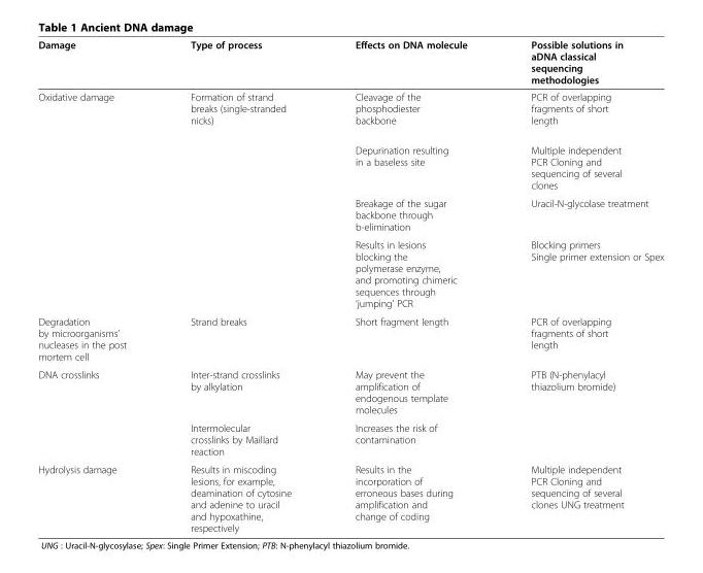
<table><thead><tr><td>Damage</td><td>Type of process</td><td>Effects on DNA molecule</td><td>Possible solutions in aDNA classical sequencing methodologies</td></tr></thead><tbody><tr><td rowspan="4">Oxidative damage</td><td rowspan="4">Formation of strand breaks (single-stranded nicks)</td><td>Cleavage of the phosphodiester backbone</td><td>PCR of overlapping fragments of short length</td></tr><tr><td>Depurination resulting in a baseless site</td><td>Multiple independent PCR Cloning and sequencing of several clones</td></tr><tr><td>Breakage of the sugar backbone through b-elimination</td><td>Uracil-N-glycolase treatment</td></tr><tr><td>Results in lesions blocking the polymerase enzyme, and promoting chimeric sequences through ‘jumping’ PCR</td><td>Blocking primers Single primer extension or Spex</td></tr><tr><td>Degradation by microorganisms’ nucleases in the post mortem cell</td><td>Strand breaks</td><td>Short fragment length</td><td>PCR of overlapping fragments of short length</td></tr><tr><td rowspan="2">DNA crosslinks</td><td>Inter-strand crosslinks by alkylation</td><td>May prevent the amplification of endogenous template molecules</td><td>PTB (N-phenylacyl thiazolium bromide)</td></tr><tr><td>Intermolecular crosslinks by Maillard reaction</td><td>Increases the risk of contamination</td><td></td></tr><tr><td>Hydrolysis damage</td><td>Results in miscoding lesions, for example, deamination of cytosine and adenine to uracil and hypoxathine, respectively</td><td>Results in the incorporation of erroneous bases during amplification and change of coding</td><td>Multiple independent PCR Cloning and sequencing of several clones UNG treatment</td></tr></tbody></table>